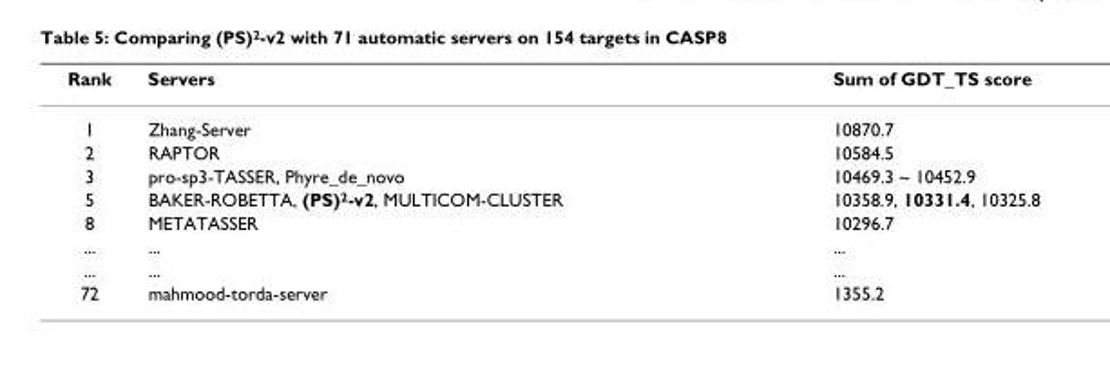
<table><thead><tr><td>Rank</td><td>Servers</td><td>Sum of GDT_TS score</td></tr></thead><tbody><tr><td>1</td><td>Zhang-Server</td><td>10870.7</td></tr><tr><td>2</td><td>RAPTOR</td><td>10584.5</td></tr><tr><td>3</td><td>pro-sp3-TASSER, Phyre_de_novo</td><td>10469.3 ~ 10452.9</td></tr><tr><td>5</td><td>BAKER-ROBETTA, (PS)<sup>2</sup>-v2, MULTICOM-CLUSTER</td><td>10358.9, 10331.4, 10325.8</td></tr><tr><td>8</td><td>METATASSER</td><td>10296.7</td></tr><tr><td>...</td><td>...</td><td>...</td></tr><tr><td>...</td><td>...</td><td>...</td></tr><tr><td>72</td><td>mahmood-torda-server</td><td>1355.2</td></tr></tbody></table>